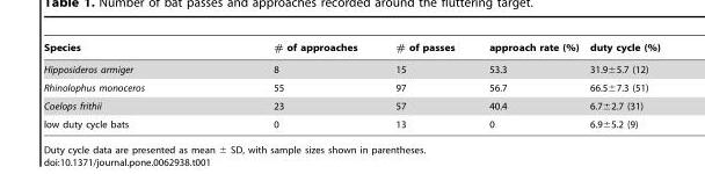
<table><thead><tr><td>Species</td><td># of approaches</td><td># of passes</td><td>approach rate (%)</td><td>duty cycle (%)</td></tr></thead><tbody><tr><td>Hipposideros armiger</td><td>8</td><td>15</td><td>53.3</td><td>31.9±5.7 (12)</td></tr><tr><td>Rhinolophus monoceros</td><td>55</td><td>97</td><td>56.7</td><td>66.5±7.3 (51)</td></tr><tr><td>Coelops frithii</td><td>23</td><td>57</td><td>40.4</td><td>6.7±2.7 (31)</td></tr><tr><td>low duty cycle bats</td><td>0</td><td>13</td><td>0</td><td>6.9±5.2 (9)</td></tr></tbody></table>